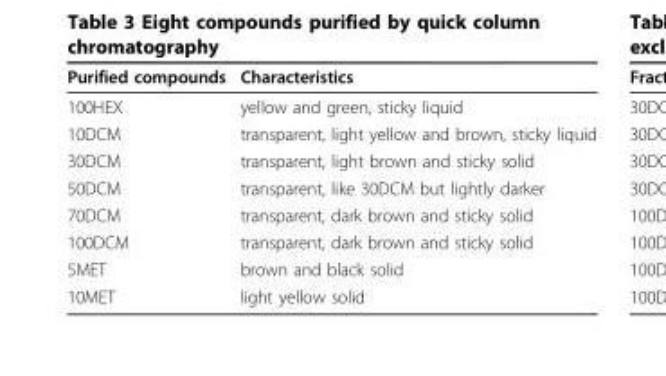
<table><thead><tr><td>Purified compounds</td><td>Characteristics</td></tr></thead><tbody><tr><td>100HEX</td><td>yellow and green, sticky liquid</td></tr><tr><td>10DCM</td><td>transparent, light yellow and brown, sticky liquid</td></tr><tr><td>30DCM</td><td>transparent, light brown and sticky solid</td></tr><tr><td>50DCM</td><td>transparent, like 30DCM but lightly darker</td></tr><tr><td>70DCM</td><td>transparent, dark brown and sticky solid</td></tr><tr><td>100DCM</td><td>transparent, dark brown and sticky solid</td></tr><tr><td>5MET</td><td>brown and black solid</td></tr><tr><td>10MET</td><td>light yellow solid</td></tr></tbody></table>